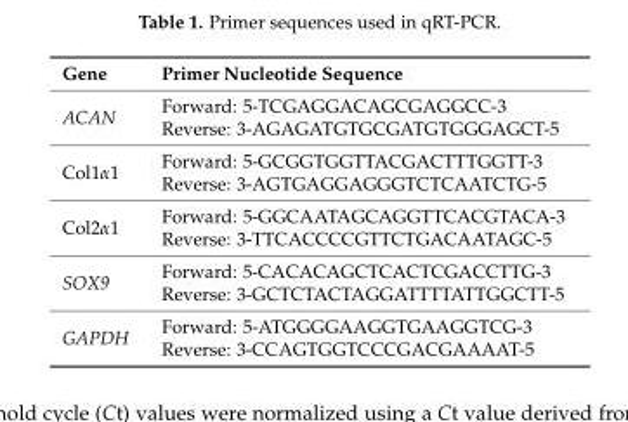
<table><thead><tr><td>Gene</td><td>Primer Nucleotide Sequence</td></tr></thead><tbody><tr><td>ACAN</td><td>Forward: 5-TCGAGGACAGCGAGGCC-3 Reverse: 3-AGAGATGTGCGATGTGGGAGCT-5</td></tr><tr><td>Col1α1</td><td>Forward: 5-GCGGTGGTTACGACTTTGGTT-3 Reverse: 3-AGTGAGGAGGGTCTCAATCTG-5</td></tr><tr><td>Col2α1</td><td>Forward: 5-GGCAATAGCAGGTTCACGTACA-3 Reverse: 3-TTCACCCCGTTCTGACAATAGC-5</td></tr><tr><td>SOX9</td><td>Forward: 5-CACACAGCTCACTCGACCTTG-3 Reverse: 3-GCTCTACTAGGATTTTATTGGCTT-5</td></tr><tr><td>GAPDH</td><td>Forward: 5-ATGGGGAAGGTGAAGGTCG-3 Reverse: 3-CCAGTGGTCCCGACGAAAAT-5</td></tr></tbody></table>